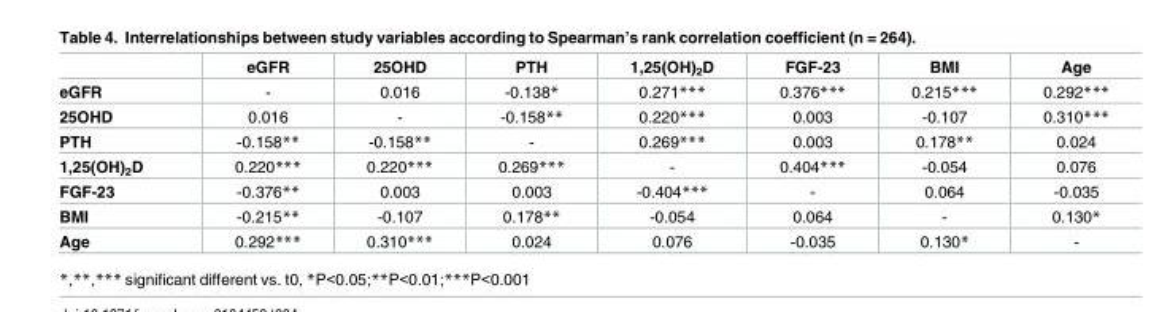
<table><thead><tr><td></td><td>eGFR</td><td>25OHD</td><td>PTH</td><td>1,25(OH)<sub>2</sub>D</td><td>FGF-23</td><td>BMI</td><td>Age</td></tr></thead><tbody><tr><td>eGFR</td><td>-</td><td>0.016</td><td>-0.138*</td><td>0.271***</td><td>0.376***</td><td>0.215***</td><td>0.292***</td></tr><tr><td>25OHD</td><td>0.016</td><td>-</td><td>-0.158**</td><td>0.220***</td><td>0.003</td><td>-0.107</td><td>0.310***</td></tr><tr><td>PTH</td><td>-0.158**</td><td>-0.158**</td><td>-</td><td>0.269***</td><td>0.003</td><td>0.178**</td><td>0.024</td></tr><tr><td>1,25(OH)<sub>2</sub>D</td><td>0.220***</td><td>0.220***</td><td>0.269***</td><td>-</td><td>0.404***</td><td>-0.054</td><td>0.076</td></tr><tr><td>FGF-23</td><td>-0.376**</td><td>0.003</td><td>0.003</td><td>-0.404***</td><td>-</td><td>0.064</td><td>-0.035</td></tr><tr><td>BMI</td><td>-0.215**</td><td>-0.107</td><td>0.178**</td><td>-0.054</td><td>0.064</td><td>-</td><td>0.130*</td></tr><tr><td>Age</td><td>0.292***</td><td>0.310***</td><td>0.024</td><td>0.076</td><td>-0.035</td><td>0.130*</td><td>-</td></tr></tbody></table>